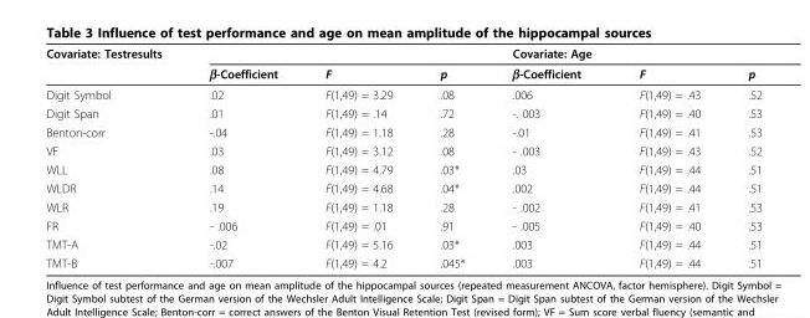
<table><thead><tr><td rowspan="2">Covariate: Testresults</td><td rowspan="2">β-Coefficient</td><td rowspan="2">F</td><td rowspan="2">p</td><td rowspan="2">Covariate: Age β-Coefficient</td><td rowspan="2">F</td><td rowspan="2">p</td></tr><tr></tr></thead><tbody><tr><td>Digit Symbol</td><td>.02</td><td>F(1,49) = 3.29</td><td>.08</td><td>.006</td><td>F(1,49) = .43</td><td>.52</td></tr><tr><td>Digit Span</td><td>.01</td><td>F(1,49) = .14</td><td>.72</td><td>-. 003</td><td>F(1,49) = .40</td><td>.53</td></tr><tr><td>Benton-corr</td><td>-.04</td><td>F(1,49) = 1.18</td><td>.28</td><td>-.01</td><td>F(1,49) = .41</td><td>.53</td></tr><tr><td>VF</td><td>.03</td><td>F(1,49) = 3.12</td><td>.08</td><td>- .003</td><td>F(1,49) = .43</td><td>.52</td></tr><tr><td>WLL</td><td>.08</td><td>F(1,49) = 4.79</td><td>.03*</td><td>.03</td><td>F(1,49) = .44</td><td>.51</td></tr><tr><td>WLDR</td><td>.14</td><td>F(1,49) = 4.68</td><td>.04*</td><td>.002</td><td>F(1,49) = .44</td><td>.51</td></tr><tr><td>WLR</td><td>.19</td><td>F(1,49) = 1.18</td><td>.28</td><td>- .002</td><td>F(1,49) = .41</td><td>.53</td></tr><tr><td>FR</td><td>- .006</td><td>F(1,49) = .01</td><td>.91</td><td>- .005</td><td>F(1,49) = .40</td><td>.53</td></tr><tr><td>TMT-A</td><td>-.02</td><td>F(1,49) = 5.16</td><td>.03*</td><td>.003</td><td>F(1,49) = .44</td><td>.51</td></tr><tr><td>TMT-B</td><td>-.007</td><td>F(1,49) = 4.2</td><td>.045*</td><td>.003</td><td>F(1,49) = .44</td><td>.51</td></tr></tbody></table>